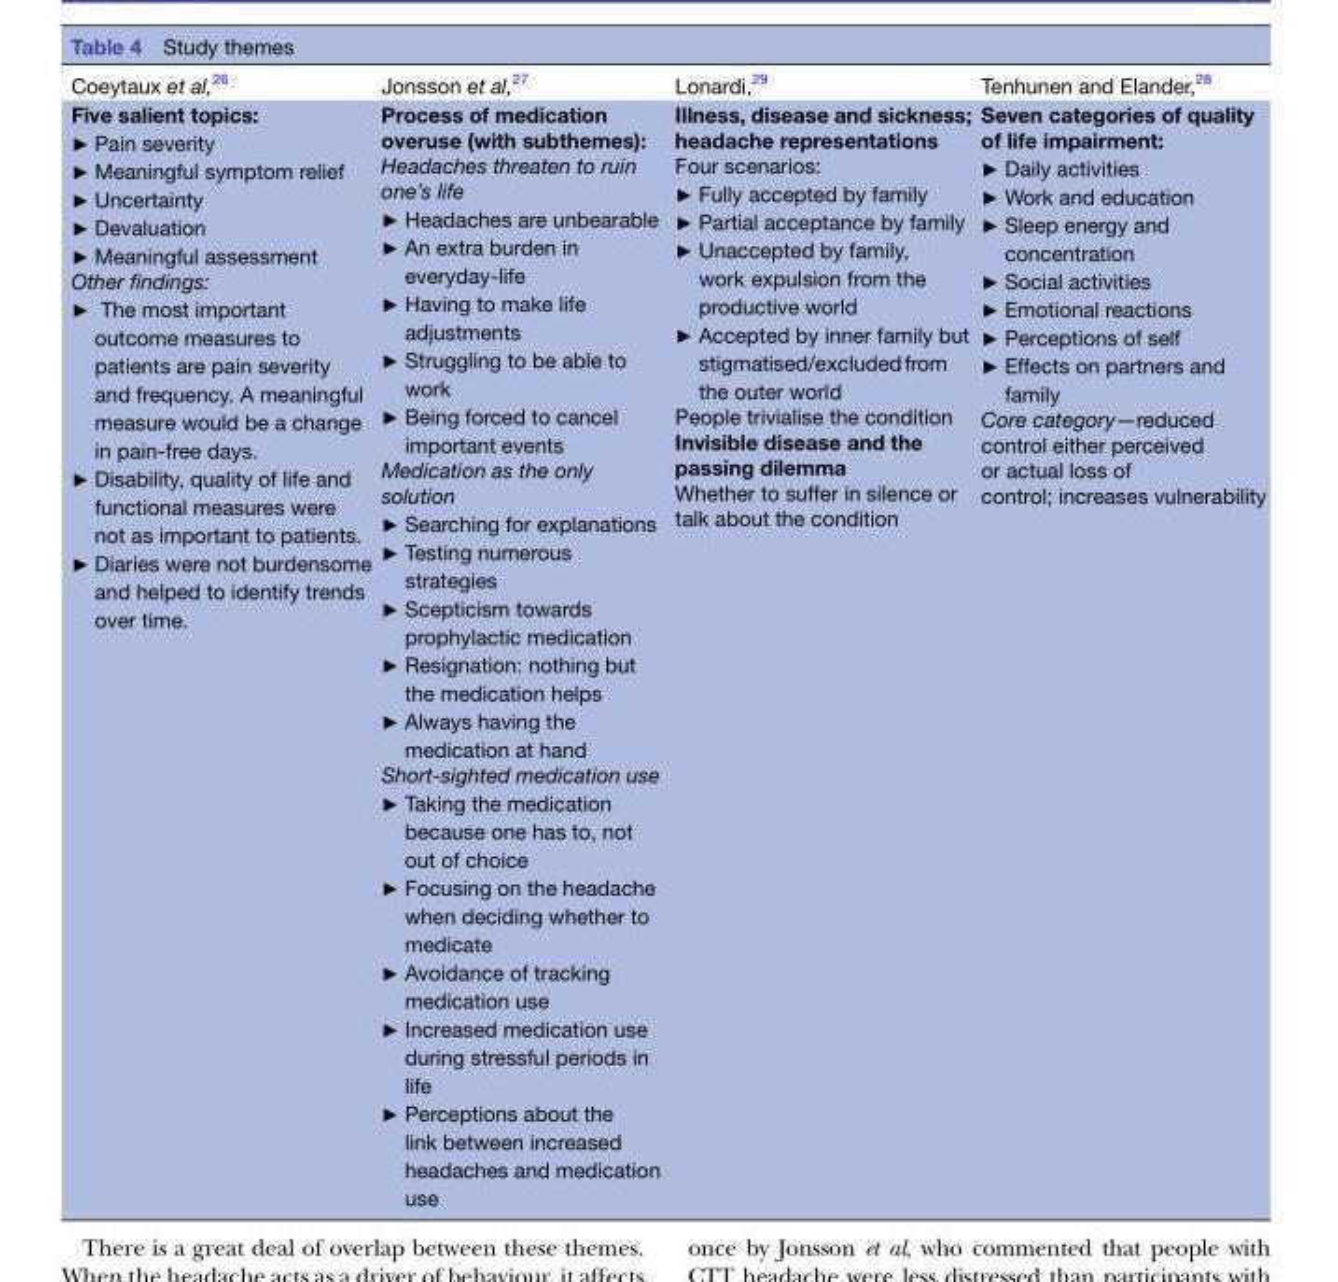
<table><tbody><tr><td>Coeytaux et al,<sup>26</sup></td><td>Jonsson et al,<sup>27</sup></td><td>Lonardi,<sup>29</sup></td><td>Tenhunen and Elander,<sup>28</sup></td></tr><tr><td>Five salient topics: ► Pain severity ► Meaningful symptom relief ► Uncertainty ► Devaluation ► Meaningful assessment Other findings: ► The most important outcome measures to patients are pain severity and frequency. A meaningful measure would be a change in pain-free days. ► Disability, quality of life and functional measures were not as important to patients. ► Diaries were not burdensome and helped to identify trends over time.</td><td>Process of medication overuse (with subthemes): Headaches threaten to ruin one’s life ► Headaches are unbearable ► An extra burden in everyday-life ► Having to make life adjustments ► Struggling to be able to work ► Being forced to cancel important events Medication as the only solution ► Searching for explanations ► Testing numerous strategies ► Scepticism towards prophylactic medication ► Resignation: nothing but the medication helps ► Always having the medication at hand Short-sighted medication use ► Taking the medication because one has to, not out of choice ► Focusing on the headache when deciding whether to medicate ► Avoidance of tracking medication use ► Increased medication use during stressful periods in life ► Perceptions about the link between increased headaches and medication use</td><td>Illness, disease and sickness; headache representations Four scenarios: ► Fully accepted by family ► Partial acceptance by family ► Unaccepted by family, work expulsion from the productive world ► Accepted by inner family but stigmatised/excluded from the outer world People trivialise the condition Invisible disease and the passing dilemma Whether to suffer in silence or talk about the condition</td><td>Seven categories of quality of life impairment: ► Daily activities ► Work and education ► Sleep energy and concentration ► Social activities ► Emotional reactions ► Perceptions of self ► Effects on partners and family Core category—reduced control either perceived or actual loss of control; increases vulnerability</td></tr></tbody></table>